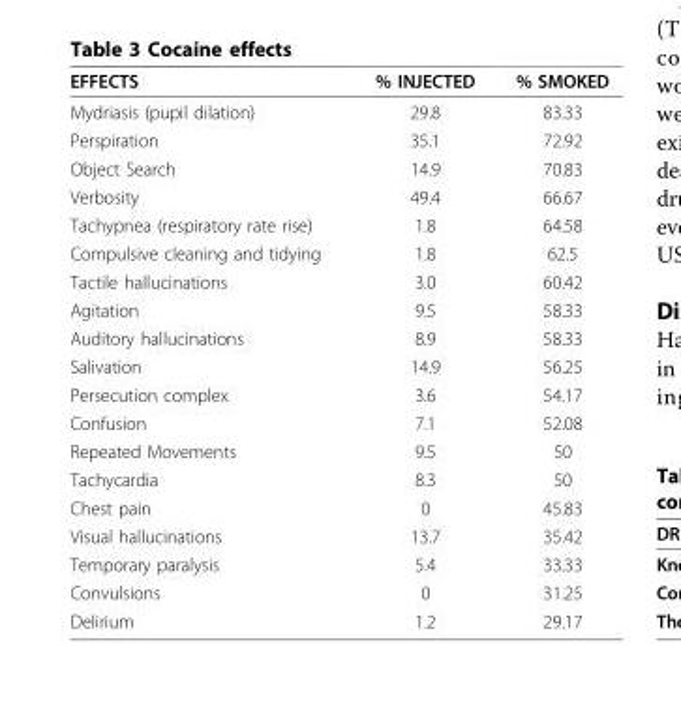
<table><thead><tr><td>EFFECTS</td><td>% INJECTED</td><td>% SMOKED</td></tr></thead><tbody><tr><td>Mydriasis (pupil dilation)</td><td>29.8</td><td>83.33</td></tr><tr><td>Perspiration</td><td>35.1</td><td>72.92</td></tr><tr><td>Object Search</td><td>14.9</td><td>70.83</td></tr><tr><td>Verbosity</td><td>49.4</td><td>66.67</td></tr><tr><td>Tachypnea (respiratory rate rise)</td><td>1.8</td><td>64.58</td></tr><tr><td>Compulsive cleaning and tidying</td><td>1.8</td><td>62.5</td></tr><tr><td>Tactile hallucinations</td><td>3.0</td><td>60.42</td></tr><tr><td>Agitation</td><td>9.5</td><td>58.33</td></tr><tr><td>Auditory hallucinations</td><td>8.9</td><td>58.33</td></tr><tr><td>Salivation</td><td>14.9</td><td>56.25</td></tr><tr><td>Persecution complex</td><td>3.6</td><td>54.17</td></tr><tr><td>Confusion</td><td>7.1</td><td>52.08</td></tr><tr><td>Repeated Movements</td><td>9.5</td><td>50</td></tr><tr><td>Tachycardia</td><td>8.3</td><td>50</td></tr><tr><td>Chest pain</td><td>0</td><td>45.83</td></tr><tr><td>Visual hallucinations</td><td>13.7</td><td>35.42</td></tr><tr><td>Temporary paralysis</td><td>5.4</td><td>33.33</td></tr><tr><td>Convulsions</td><td>0</td><td>31.25</td></tr><tr><td>Delirium</td><td>1.2</td><td>29.17</td></tr></tbody></table>